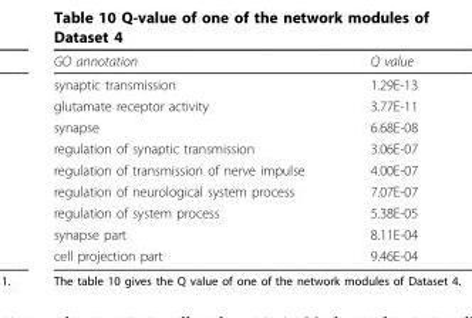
<table><thead><tr><td>GO annotation</td><td>Q value</td></tr></thead><tbody><tr><td>synaptic transmission</td><td>1.29E-13</td></tr><tr><td>glutamate receptor activity</td><td>3.77E-11</td></tr><tr><td>synapse</td><td>6.68E-08</td></tr><tr><td>regulation of synaptic transmission</td><td>3.06E-07</td></tr><tr><td>regulation of transmission of nerve impulse</td><td>4.00E-07</td></tr><tr><td>regulation of neurological system process</td><td>7.07E-07</td></tr><tr><td>regulation of system process</td><td>5.38E-05</td></tr><tr><td>synapse part</td><td>8.11E-04</td></tr><tr><td>cell projection part</td><td>9.46E-04</td></tr></tbody></table>